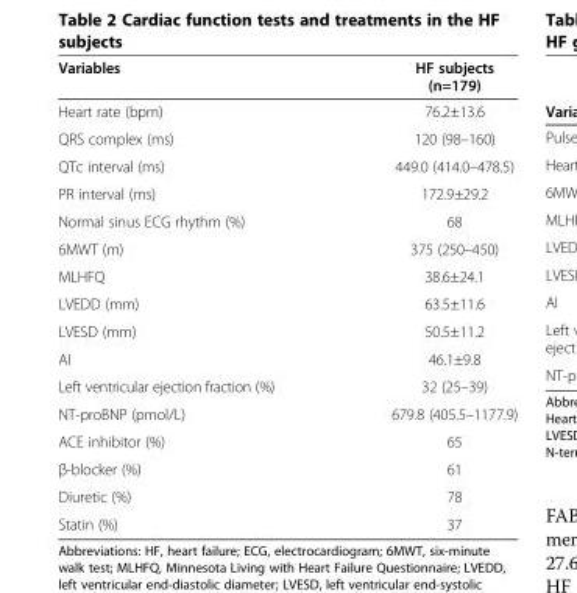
<table><thead><tr><td>Variables</td><td>HF subjects (n=179)</td></tr></thead><tbody><tr><td>Heart rate (bpm)</td><td>76.2±13.6</td></tr><tr><td>QRS complex (ms)</td><td>120 (98–160)</td></tr><tr><td>QTc interval (ms)</td><td>449.0 (414.0–478.5)</td></tr><tr><td>PR interval (ms)</td><td>172.9±29.2</td></tr><tr><td>Normal sinus ECG rhythm (%)</td><td>68</td></tr><tr><td>6MWT (m)</td><td>375 (250–450)</td></tr><tr><td>MLHFQ</td><td>38.6±24.1</td></tr><tr><td>LVEDD (mm)</td><td>63.5±11.6</td></tr><tr><td>LVESD (mm)</td><td>50.5±11.2</td></tr><tr><td>AI</td><td>46.1±9.8</td></tr><tr><td>Left ventricular ejection fraction (%)</td><td>32 (25–39)</td></tr><tr><td>NT-proBNP (pmol/L)</td><td>679.8 (405.5–1177.9)</td></tr><tr><td>ACE inhibitor (%)</td><td>65</td></tr><tr><td>β-blocker (%)</td><td>61</td></tr><tr><td>Diuretic (%)</td><td>78</td></tr><tr><td>Statin (%)</td><td>37</td></tr></tbody></table>